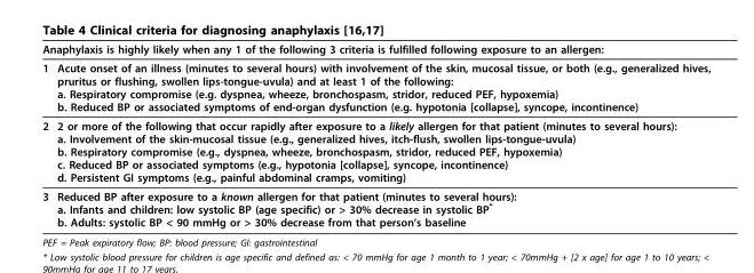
<table><thead><tr><td colspan="2">Anaphylaxis is highly likely when any 1 of the following 3 criteria is fulfilled following exposure to an allergen:</td></tr><tr><td>1</td><td>Acute onset of an illness (minutes to several hours) with involvement of the skin, mucosal tissue, or both (e.g., generalized hives, pruritus or flushing, swollen lips-tongue-uvula) and at least 1 of the following: a. Respiratory compromise (e.g. dyspnea, wheeze, bronchospasm, stridor, reduced PEF, hypoxemia) b. Reduced BP or associated symptoms of end-organ dysfunction (e.g. hypotonia [collapse], syncope, incontinence)</td></tr></thead><tbody><tr><td>2</td><td>2 or more of the following that occur rapidly after exposure to a likely allergen for that patient (minutes to several hours): a. Involvement of the skin-mucosal tissue (e.g., generalized hives, itch-flush, swollen lips-tongue-uvula) b. Respiratory compromise (e.g., dyspnea, wheeze, bronchospasm, stridor, reduced PEF, hypoxemia) c. Reduced BP or associated symptoms (e.g., hypotonia [collapse], syncope, incontinence) d. Persistent GI symptoms (e.g., painful abdominal cramps, vomiting)</td></tr><tr><td>3</td><td>Reduced BP after exposure to a known allergen for that patient (minutes to several hours): a. Infants and children: low systolic BP (age specific) or &gt; 30% decrease in systolic BP* b. Adults: systolic BP &lt; 90 mmHg or &gt; 30% decrease from that person’s baseline</td></tr></tbody></table>